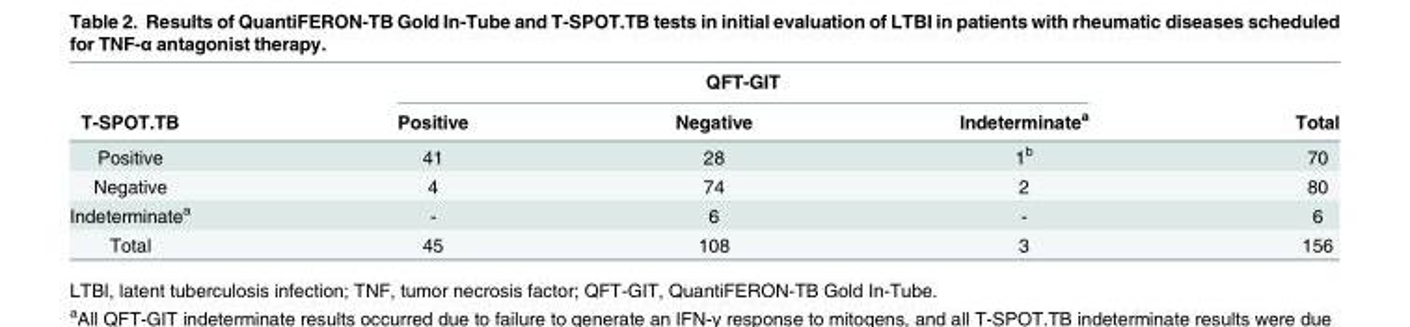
<table><thead><tr><td rowspan="2">T-SPOT.TB</td><td colspan="3">QFT-GIT</td><td rowspan="2">Total</td></tr><tr><td>Positive</td><td>Negative</td><td>Indeterminate<sup>a</sup></td></tr></thead><tbody><tr><td>Positive</td><td>41</td><td>28</td><td>1<sup>b</sup></td><td>70</td></tr><tr><td>Negative</td><td>4</td><td>74</td><td>2</td><td>80</td></tr><tr><td>Indeterminate<sup>a</sup></td><td>-</td><td>6</td><td>-</td><td>6</td></tr><tr><td>Total</td><td>45</td><td>108</td><td>3</td><td>156</td></tr></tbody></table>